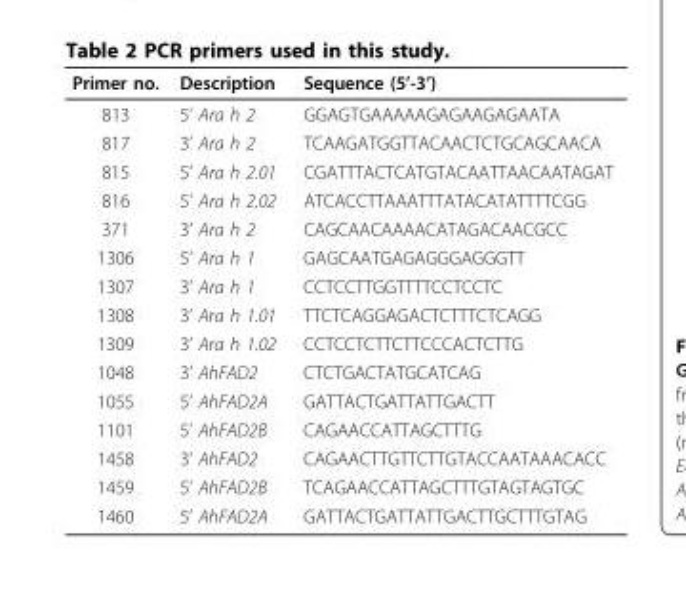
<table><thead><tr><td>Primer no.</td><td>Description</td><td>Sequence (5’-3’)</td></tr></thead><tbody><tr><td>813</td><td>5’ Ara h 2</td><td>GGAGTGAAAAAGAGAAGAGAATA</td></tr><tr><td>817</td><td>3’ Ara h 2</td><td>TCAAGATGGTTACAACTCTGCAGCAACA</td></tr><tr><td>815</td><td>5’ Ara h 2.01</td><td>CGATTTACTCATGTACAATTAACAATAGAT</td></tr><tr><td>816</td><td>5’ Ara h 2.02</td><td>ATCACCTTAAATTTATACATATTTTCGG</td></tr><tr><td>371</td><td>3’ Ara h 2</td><td>CAGCAACAAAACATAGACAACGCC</td></tr><tr><td>1306</td><td>5’ Ara h 1</td><td>GAGCAATGAGAGGGAGGGTT</td></tr><tr><td>1307</td><td>3’ Ara h 1</td><td>CCTCCTTGGTTTTCCTCCTC</td></tr><tr><td>1308</td><td>3’ Ara h 1.01</td><td>TTCTCAGGAGACTCTTTCTCAGG</td></tr><tr><td>1309</td><td>3’ Ara h 1.02</td><td>CCTCCTCTTCTTCCCACTCTTG</td></tr><tr><td>1048</td><td>3’ AhFAD2</td><td>CTCTGACTATGCATCAG</td></tr><tr><td>1055</td><td>5’ AhFAD2A</td><td>GATTACTGATTATTGACTT</td></tr><tr><td>1101</td><td>5’ AhFAD2B</td><td>CAGAACCATTAGCTTTG</td></tr><tr><td>1458</td><td>3’ AhFAD2</td><td>CAGAACTTGTTCTTGTACCAATAAACACC</td></tr><tr><td>1459</td><td>5’ AhFAD2B</td><td>TCAGAACCATTAGCTTTGTAGTAGTGC</td></tr><tr><td>1460</td><td>5’ AhFAD2A</td><td>GATTACTGATTATTGACTTGCTTTGTAG</td></tr></tbody></table>